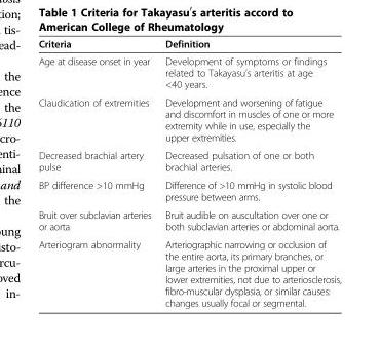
<table><thead><tr><td>Criteria</td><td>Definition</td></tr></thead><tbody><tr><td>Age at disease onset in year</td><td>Development of symptoms or findings related to Takayasu’s arteritis at age &lt;40 years.</td></tr><tr><td>Claudication of extremities</td><td>Development and worsening of fatigue and discomfort in muscles of one or more extremity while in use, especially the upper extremities.</td></tr><tr><td>Decreased brachial artery pulse</td><td>Decreased pulsation of one or both brachial arteries.</td></tr><tr><td>BP difference &gt;10 mmHg</td><td>Difference of &gt;10 mmHg in systolic blood pressure between arms.</td></tr><tr><td>Bruit over subclavian arteries or aorta</td><td>Bruit audible on auscultation over one or both subclavian arteries or abdominal aorta.</td></tr><tr><td>Arteriogram abnormality</td><td>Arteriographic narrowing or occlusion of the entire aorta, its primary branches, or large arteries in the proximal upper or lower extremities, not due to arteriosclerosis, fibro-muscular dysplasia, or similar causes: changes usually focal or segmental.</td></tr></tbody></table>